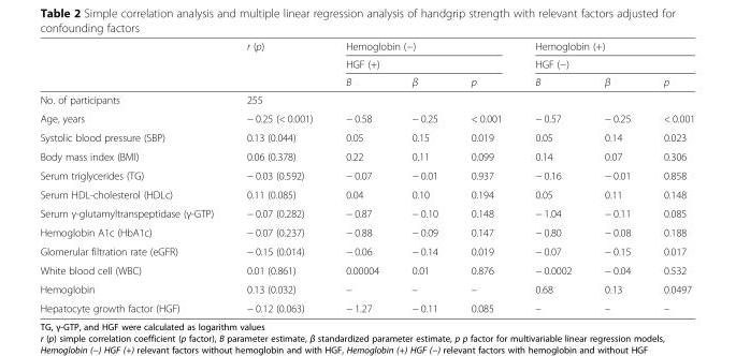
<table><thead><tr><td rowspan="3"></td><td rowspan="3">r (p)</td><td rowspan="2" colspan="3">Hemoglobin (−) HGF (+)</td><td rowspan="2" colspan="3">Hemoglobin (+) HGF (−)</td></tr><tr></tr><tr><td>Β</td><td>β</td><td>p</td><td>Β</td><td>β</td><td>p</td></tr></thead><tbody><tr><td>No. of participants</td><td colspan="7">255</td></tr><tr><td>Age, years</td><td>− 0.25 (&lt; 0.001)</td><td>− 0.58</td><td>− 0.25</td><td>&lt; 0.001</td><td>− 0.57</td><td>− 0.25</td><td>&lt; 0.001</td></tr><tr><td>Systolic blood pressure (SBP)</td><td>0.13 (0.044)</td><td>0.05</td><td>0.15</td><td>0.019</td><td>0.05</td><td>0.14</td><td>0.023</td></tr><tr><td>Body mass index (BMI)</td><td>0.06 (0.378)</td><td>0.22</td><td>0.11</td><td>0.099</td><td>0.14</td><td>0.07</td><td>0.306</td></tr><tr><td>Serum triglycerides (TG)</td><td>− 0.03 (0.592)</td><td>− 0.07</td><td>− 0.01</td><td>0.937</td><td>− 0.16</td><td>− 0.01</td><td>0.858</td></tr><tr><td>Serum HDL-cholesterol (HDLc)</td><td>0.11 (0.085)</td><td>0.04</td><td>0.10</td><td>0.194</td><td>0.05</td><td>0.11</td><td>0.148</td></tr><tr><td>Serum γ-glutamyltranspeptidase (γ-GTP)</td><td>− 0.07 (0.282)</td><td>− 0.87</td><td>− 0.10</td><td>0.148</td><td>− 1.04</td><td>− 0.11</td><td>0.085</td></tr><tr><td>Hemoglobin A1c (HbA1c)</td><td>− 0.07 (0.237)</td><td>− 0.88</td><td>− 0.09</td><td>0.147</td><td>− 0.80</td><td>− 0.08</td><td>0.188</td></tr><tr><td>Glomerular filtration rate (eGFR)</td><td>− 0.15 (0.014)</td><td>− 0.06</td><td>− 0.14</td><td>0.019</td><td>− 0.07</td><td>− 0.15</td><td>0.017</td></tr><tr><td>White blood cell (WBC)</td><td>0.01 (0.861)</td><td>0.00004</td><td>0.01</td><td>0.876</td><td>− 0.0002</td><td>− 0.04</td><td>0.532</td></tr><tr><td>Hemoglobin</td><td>0.13 (0.032)</td><td>–</td><td>–</td><td>–</td><td>0.68</td><td>0.13</td><td>0.0497</td></tr><tr><td>Hepatocyte growth factor (HGF)</td><td>− 0.12 (0.063)</td><td>− 1.27</td><td>− 0.11</td><td>0.085</td><td>–</td><td>–</td><td>–</td></tr></tbody></table>